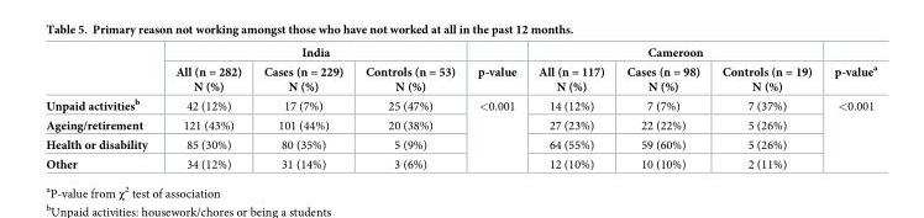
<table><thead><tr><td rowspan="2"></td><td colspan="3">India</td><td rowspan="2">p-value</td><td colspan="3">Cameroon</td><td rowspan="2">p-value<sup>a</sup></td></tr><tr><td>All (n = 282) N (%)</td><td>Cases (n = 229) N (%)</td><td>Controls (n = 53) N (%)</td><td>All (n = 117) N (%)</td><td>Cases (n = 98) N (%)</td><td>Controls (n = 19) N (%)</td></tr></thead><tbody><tr><td>Unpaid activities<sup>b</sup></td><td>42 (12%)</td><td>17 (7%)</td><td>25 (47%)</td><td rowspan="4">&lt;0.001</td><td>14 (12%)</td><td>7 (7%)</td><td>7 (37%)</td><td rowspan="4">&lt;0.001</td></tr><tr><td>Ageing/retirement</td><td>121 (43%)</td><td>101 (44%)</td><td>20 (38%)</td><td>27 (23%)</td><td>22 (22%)</td><td>5 (26%)</td></tr><tr><td>Health or disability</td><td>85 (30%)</td><td>80 (35%)</td><td>5 (9%)</td><td>64 (55%)</td><td>59 (60%)</td><td>5 (26%)</td></tr><tr><td>Other</td><td>34 (12%)</td><td>31 (14%)</td><td>3 (6%)</td><td>12 (10%)</td><td>10 (10%)</td><td>2 (11%)</td></tr></tbody></table>